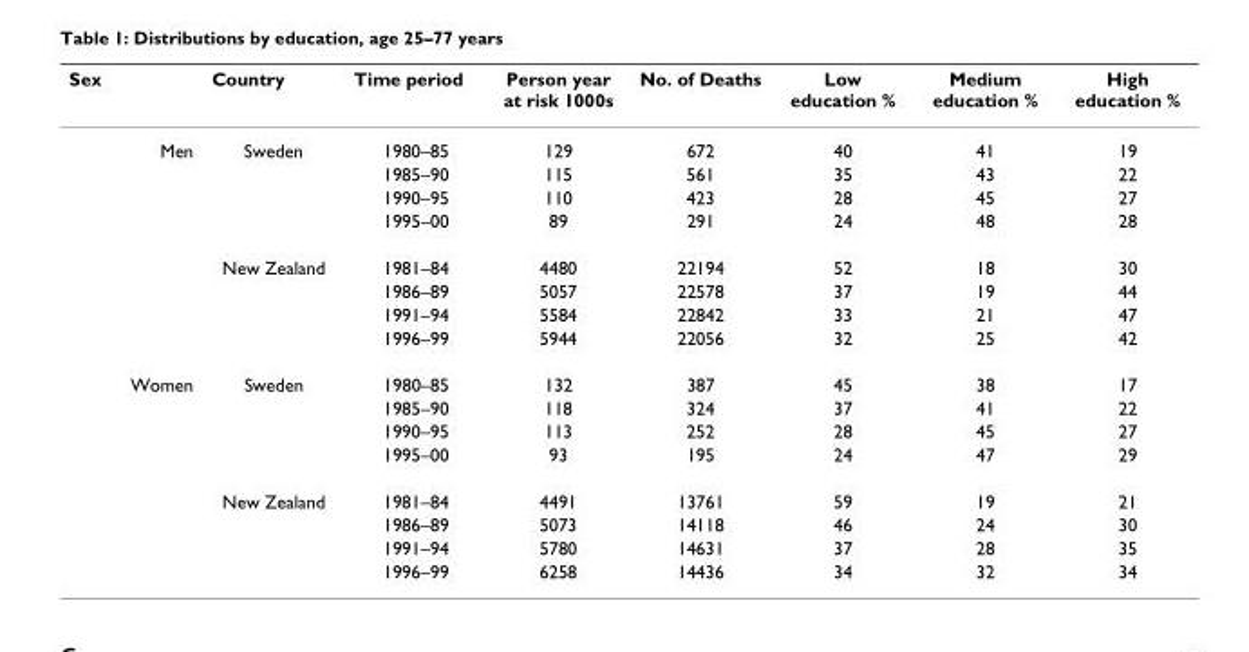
<table><thead><tr><td>Sex</td><td>Country</td><td>Time period</td><td>Person year at risk 1000s</td><td>No. of Deaths</td><td>Low education %</td><td>Medium education %</td><td>High education %</td></tr></thead><tbody><tr><td rowspan="8">Men</td><td>Sweden</td><td>1980–85</td><td>129</td><td>672</td><td>40</td><td>41</td><td>19</td></tr><tr><td></td><td>1985–90</td><td>115</td><td>561</td><td>35</td><td>43</td><td>22</td></tr><tr><td></td><td>1990–95</td><td>110</td><td>423</td><td>28</td><td>45</td><td>27</td></tr><tr><td></td><td>1995–00</td><td>89</td><td>291</td><td>24</td><td>48</td><td>28</td></tr><tr><td>New Zealand</td><td>1981–84</td><td>4480</td><td>22194</td><td>52</td><td>18</td><td>30</td></tr><tr><td></td><td>1986–89</td><td>5057</td><td>22578</td><td>37</td><td>19</td><td>44</td></tr><tr><td></td><td>1991–94</td><td>5584</td><td>22842</td><td>33</td><td>21</td><td>47</td></tr><tr><td></td><td>1996–99</td><td>5944</td><td>22056</td><td>32</td><td>25</td><td>42</td></tr><tr><td rowspan="8">Women</td><td>Sweden</td><td>1980–85</td><td>132</td><td>387</td><td>45</td><td>38</td><td>17</td></tr><tr><td></td><td>1985–90</td><td>118</td><td>324</td><td>37</td><td>41</td><td>22</td></tr><tr><td></td><td>1990–95</td><td>113</td><td>252</td><td>28</td><td>45</td><td>27</td></tr><tr><td></td><td>1995–00</td><td>93</td><td>195</td><td>24</td><td>47</td><td>29</td></tr><tr><td>New Zealand</td><td>1981–84</td><td>4491</td><td>13761</td><td>59</td><td>19</td><td>21</td></tr><tr><td></td><td>1986–89</td><td>5073</td><td>14118</td><td>46</td><td>24</td><td>30</td></tr><tr><td></td><td>1991–94</td><td>5780</td><td>14631</td><td>37</td><td>28</td><td>35</td></tr><tr><td></td><td>1996–99</td><td>6258</td><td>14436</td><td>34</td><td>32</td><td>34</td></tr></tbody></table>